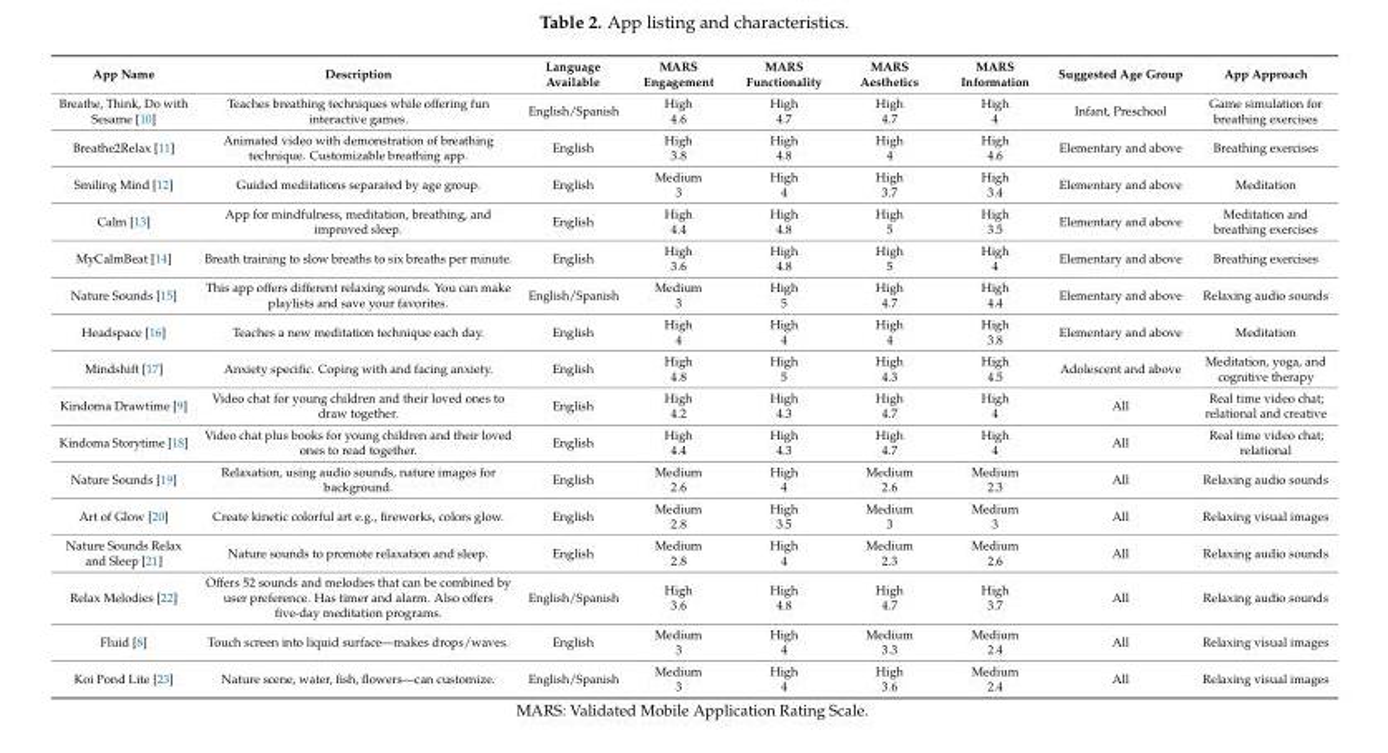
<table><thead><tr><td>App Name</td><td>Description</td><td>Language Available</td><td>MARS Engagement</td><td>MARS Functionality</td><td>MARS Aesthetics</td><td>MARS Information</td><td>Suggested Age Group</td><td>App Approach</td></tr></thead><tbody><tr><td>Breathe, Think, Do with Sesame [10]</td><td>Teaches breathing techniques while offering fun interactive games.</td><td>English/Spanish</td><td>High 4.6</td><td>High 4.7</td><td>High 4.7</td><td>High 4</td><td>Infant, Preschool</td><td>Game simulation for breathing exercises</td></tr><tr><td>Breathe2Relax [11]</td><td>Animated video with demonstration of breathing technique. Customizable breathing app.</td><td>English</td><td>High 3.8</td><td>High 4.8</td><td>High 4</td><td>High 4.6</td><td>Elementary and above</td><td>Breathing exercises</td></tr><tr><td>Smiling Mind [12]</td><td>Guided meditations separated by age group.</td><td>English</td><td>Medium 3</td><td>High 4</td><td>High 3.7</td><td>High 3.4</td><td>Elementary and above</td><td>Meditation</td></tr><tr><td>Calm [13]</td><td>App for mindfulness, meditation, breathing, and improved sleep.</td><td>English</td><td>High 4.4</td><td>High 4.8</td><td>High 5</td><td>High 3.5</td><td>Elementary and above</td><td>Meditation and breathing exercises</td></tr><tr><td>MyCalmBeat [14]</td><td>Breath training to slow breaths to six breaths per minute.</td><td>English</td><td>High 3.6</td><td>High 4.8</td><td>High 5</td><td>High 4</td><td>Elementary and above</td><td>Breathing exercises</td></tr><tr><td>Nature Sounds [15]</td><td>This app offers different relaxing sounds. You can make playlists and save your favorites.</td><td>English/Spanish</td><td>Medium 3</td><td>High 5</td><td>High 4.7</td><td>High 4.4</td><td>Elementary and above</td><td>Relaxing audio sounds</td></tr><tr><td>Headspace [16]</td><td>Teaches a new meditation technique each day.</td><td>English</td><td>High 4</td><td>High 4</td><td>High 4</td><td>High 3.8</td><td>Elementary and above</td><td>Meditation</td></tr><tr><td>Mindshift [17]</td><td>Anxiety specific. Coping with and facing anxiety.</td><td>English</td><td>High 4.8</td><td>High 5</td><td>High 4.3</td><td>High 4.5</td><td>Adolescent and above</td><td>Meditation, yoga, and cognitive therapy</td></tr><tr><td>Kindoma Drawtime [9]</td><td>Video chat for young children and their loved ones to draw together.</td><td>English</td><td>High 4.2</td><td>High 4.3</td><td>High 4.7</td><td>High 4</td><td>All</td><td>Real time video chat; relational and creative</td></tr><tr><td>Kindoma Storytime [18]</td><td>Video chat plus books for young children and their loved ones to read together.</td><td>English</td><td>High 4.4</td><td>High 4.3</td><td>High 4.7</td><td>High 4</td><td>All</td><td>Real time video chat; relational</td></tr><tr><td>Nature Sounds [19]</td><td>Relaxation, using audio sounds, nature images for background.</td><td>English</td><td>Medium 2.6</td><td>High 4</td><td>Medium 2.6</td><td>Medium 2.3</td><td>All</td><td>Relaxing audio sounds</td></tr><tr><td>Art of Glow [20]</td><td>Create kinetic colorful art e.g., fireworks, colors glow.</td><td>English</td><td>Medium 2.8</td><td>High 3.5</td><td>Medium 3</td><td>Medium 3</td><td>All</td><td>Relaxing visual images</td></tr><tr><td>Nature Sounds Relax and Sleep [21]</td><td>Nature sounds to promote relaxation and sleep.</td><td>English</td><td>Medium 2.8</td><td>High 4</td><td>Medium 2.3</td><td>Medium 2.6</td><td>All</td><td>Relaxing audio sounds</td></tr><tr><td>Relax Melodies [22]</td><td>Offers 52 sounds and melodies that can be combined by user preference. Has timer and alarm. Also offers five-day meditation programs.</td><td>English/Spanish</td><td>High 3.6</td><td>High 4.8</td><td>High 4.7</td><td>High 3.7</td><td>All</td><td>Relaxing audio sounds</td></tr><tr><td>Fluid [8]</td><td>Touch screen into liquid surface—makes drops/waves.</td><td>English</td><td>Medium 3</td><td>High 4</td><td>Medium 3.3</td><td>Medium 2.4</td><td>All</td><td>Relaxing visual images</td></tr><tr><td>Koi Pond Lite [23]</td><td>Nature scene, water, fish, flowers—can customize.</td><td>English/Spanish</td><td>Medium 3</td><td>High 4</td><td>High 3.6</td><td>Medium 2.4</td><td>All</td><td>Relaxing visual images</td></tr></tbody></table>